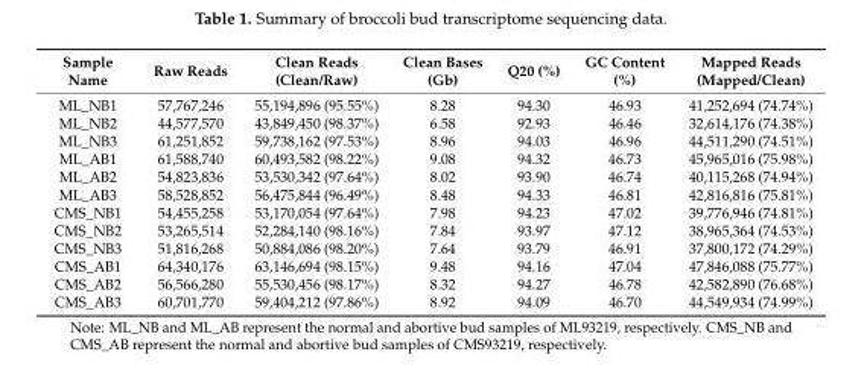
<table><thead><tr><td>Sample Name</td><td>Raw Reads</td><td>Clean Reads (Clean/Raw)</td><td>Clean Bases (Gb)</td><td>Q20 (%)</td><td>GC Content (%)</td><td>Mapped Reads (Mapped/Clean)</td></tr></thead><tbody><tr><td>ML_NB1</td><td>57,767,246</td><td>55,194,896 (95.55%)</td><td>8.28</td><td>94.30</td><td>46.93</td><td>41,252,694 (74.74%)</td></tr><tr><td>ML_NB2</td><td>44,577,570</td><td>43,849,450 (98.37%)</td><td>6.58</td><td>92.93</td><td>46.46</td><td>32,614,176 (74.38%)</td></tr><tr><td>ML_NB3</td><td>61,251,852</td><td>59,738,162 (97.53%)</td><td>8.96</td><td>94.03</td><td>46.96</td><td>44,511,290 (74.51%)</td></tr><tr><td>ML_AB1</td><td>61,588,740</td><td>60,493,582 (98.22%)</td><td>9.08</td><td>94.32</td><td>46.73</td><td>45,965,016 (75.98%)</td></tr><tr><td>ML_AB2</td><td>54,823,836</td><td>53,530,342 (97.64%)</td><td>8.02</td><td>93.90</td><td>46.74</td><td>40,115,268 (74.94%)</td></tr><tr><td>ML_AB3</td><td>58,528,852</td><td>56,475,844 (96.49%)</td><td>8.48</td><td>94.33</td><td>46.81</td><td>42,816,816 (75.81%)</td></tr><tr><td>CMS_NB1</td><td>54,455,258</td><td>53,170,054 (97.64%)</td><td>7.98</td><td>94.23</td><td>47.02</td><td>39,776,946 (74.81%)</td></tr><tr><td>CMS_NB2</td><td>53,265,514</td><td>52,284,140 (98.16%)</td><td>7.84</td><td>93.97</td><td>47.12</td><td>38,965,364 (74.53%)</td></tr><tr><td>CMS_NB3</td><td>51,816,268</td><td>50,884,086 (98.20%)</td><td>7.64</td><td>93.79</td><td>46.91</td><td>37,800,172 (74.29%)</td></tr><tr><td>CMS_AB1</td><td>64,340,176</td><td>63,146,694 (98.15%)</td><td>9.48</td><td>94.16</td><td>47.04</td><td>47,846,088 (75.77%)</td></tr><tr><td>CMS_AB2</td><td>56,566,280</td><td>55,530,456 (98.17%)</td><td>8.32</td><td>94.27</td><td>46.78</td><td>42,582,890 (76.68%)</td></tr><tr><td>CMS_AB3</td><td>60,701,770</td><td>59,404,212 (97.86%)</td><td>8.92</td><td>94.09</td><td>46.70</td><td>44,549,934 (74.99%)</td></tr></tbody></table>